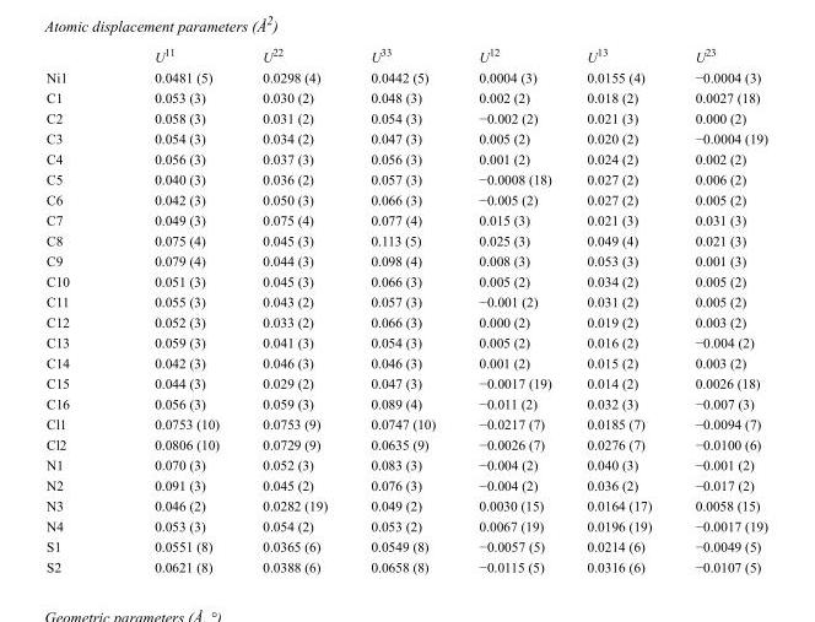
<table><thead><tr><td></td><td>U<sup>11</sup></td><td>U<sup>22</sup></td><td>U<sup>33</sup></td><td>U<sup>12</sup></td><td>U<sup>13</sup></td><td>U<sup>23</sup></td></tr></thead><tbody><tr><td>Ni1</td><td>0.0481 (5)</td><td>0.0298 (4)</td><td>0.0442 (5)</td><td>0.0004 (3)</td><td>0.0155 (4)</td><td>−0.0004 (3)</td></tr><tr><td>C1</td><td>0.053 (3)</td><td>0.030 (2)</td><td>0.048 (3)</td><td>0.002 (2)</td><td>0.018 (2)</td><td>0.0027 (18)</td></tr><tr><td>C2</td><td>0.058 (3)</td><td>0.031 (2)</td><td>0.054 (3)</td><td>−0.002 (2)</td><td>0.021 (3)</td><td>0.000 (2)</td></tr><tr><td>C3</td><td>0.054 (3)</td><td>0.034 (2)</td><td>0.047 (3)</td><td>0.005 (2)</td><td>0.020 (2)</td><td>−0.0004 (19)</td></tr><tr><td>C4</td><td>0.056 (3)</td><td>0.037 (3)</td><td>0.056 (3)</td><td>0.001 (2)</td><td>0.024 (2)</td><td>0.002 (2)</td></tr><tr><td>C5</td><td>0.040 (3)</td><td>0.036 (2)</td><td>0.057 (3)</td><td>−0.0008 (18)</td><td>0.027 (2)</td><td>0.006 (2)</td></tr><tr><td>C6</td><td>0.042 (3)</td><td>0.050 (3)</td><td>0.066 (3)</td><td>−0.005 (2)</td><td>0.027 (2)</td><td>0.005 (2)</td></tr><tr><td>C7</td><td>0.049 (3)</td><td>0.075 (4)</td><td>0.077 (4)</td><td>0.015 (3)</td><td>0.021 (3)</td><td>0.031 (3)</td></tr><tr><td>C8</td><td>0.075 (4)</td><td>0.045 (3)</td><td>0.113 (5)</td><td>0.025 (3)</td><td>0.049 (4)</td><td>0.021 (3)</td></tr><tr><td>C9</td><td>0.079 (4)</td><td>0.044 (3)</td><td>0.098 (4)</td><td>0.008 (3)</td><td>0.053 (3)</td><td>0.001 (3)</td></tr><tr><td>C10</td><td>0.051 (3)</td><td>0.045 (3)</td><td>0.066 (3)</td><td>0.005 (2)</td><td>0.034 (2)</td><td>0.005 (2)</td></tr><tr><td>C11</td><td>0.055 (3)</td><td>0.043 (2)</td><td>0.057 (3)</td><td>−0.001 (2)</td><td>0.031 (2)</td><td>0.005 (2)</td></tr><tr><td>C12</td><td>0.052 (3)</td><td>0.033 (2)</td><td>0.066 (3)</td><td>0.000 (2)</td><td>0.019 (2)</td><td>0.003 (2)</td></tr><tr><td>C13</td><td>0.059 (3)</td><td>0.041 (3)</td><td>0.054 (3)</td><td>0.005 (2)</td><td>0.016 (2)</td><td>−0.004 (2)</td></tr><tr><td>C14</td><td>0.042 (3)</td><td>0.046 (3)</td><td>0.046 (3)</td><td>0.001 (2)</td><td>0.015 (2)</td><td>0.003 (2)</td></tr><tr><td>C15</td><td>0.044 (3)</td><td>0.029 (2)</td><td>0.047 (3)</td><td>−0.0017 (19)</td><td>0.014 (2)</td><td>0.0026 (18)</td></tr><tr><td>C16</td><td>0.056 (3)</td><td>0.059 (3)</td><td>0.089 (4)</td><td>−0.011 (2)</td><td>0.032 (3)</td><td>−0.007 (3)</td></tr><tr><td>Cl1</td><td>0.0753 (10)</td><td>0.0753 (9)</td><td>0.0747 (10)</td><td>−0.0217 (7)</td><td>0.0185 (7)</td><td>−0.0094 (7)</td></tr><tr><td>Cl2</td><td>0.0806 (10)</td><td>0.0729 (9)</td><td>0.0635 (9)</td><td>−0.0026 (7)</td><td>0.0276 (7)</td><td>−0.0100 (6)</td></tr><tr><td>N1</td><td>0.070 (3)</td><td>0.052 (3)</td><td>0.083 (3)</td><td>−0.004 (2)</td><td>0.040 (3)</td><td>−0.001 (2)</td></tr><tr><td>N2</td><td>0.091 (3)</td><td>0.045 (2)</td><td>0.076 (3)</td><td>−0.004 (2)</td><td>0.036 (2)</td><td>−0.017 (2)</td></tr><tr><td>N3</td><td>0.046 (2)</td><td>0.0282 (19)</td><td>0.049 (2)</td><td>0.0030 (15)</td><td>0.0164 (17)</td><td>0.0058 (15)</td></tr><tr><td>N4</td><td>0.053 (3)</td><td>0.054 (2)</td><td>0.053 (2)</td><td>0.0067 (19)</td><td>0.0196 (19)</td><td>−0.0017 (19)</td></tr><tr><td>S1</td><td>0.0551 (8)</td><td>0.0365 (6)</td><td>0.0549 (8)</td><td>−0.0057 (5)</td><td>0.0214 (6)</td><td>−0.0049 (5)</td></tr><tr><td>S2</td><td>0.0621 (8)</td><td>0.0388 (6)</td><td>0.0658 (8)</td><td>−0.0115 (5)</td><td>0.0316 (6)</td><td>−0.0107 (5)</td></tr></tbody></table>